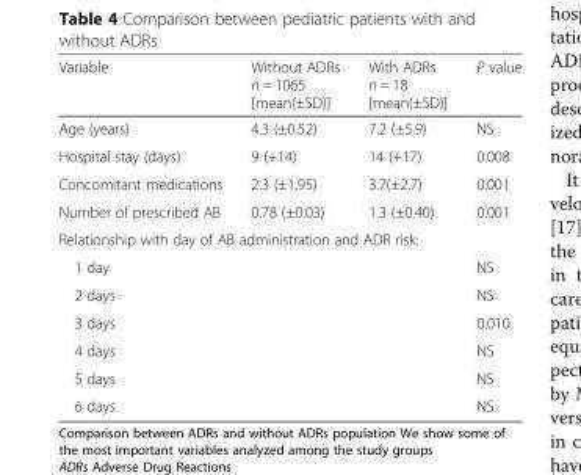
<table><thead><tr><td>Variable</td><td>Without ADRs n = 1065 [mean(±SD)]</td><td>With ADRs n = 18 [mean(±SD)]</td><td>P value</td></tr></thead><tbody><tr><td>Age (years)</td><td>4.3 (±0.52)</td><td>7.2 (±5.9)</td><td>NS</td></tr><tr><td>Hospital stay (days)</td><td>9 (+14)</td><td>14 (+17)</td><td>0.008</td></tr><tr><td>Concomitant medications</td><td>2.3 (±1.95)</td><td>3.7(±2.7)</td><td>0.001</td></tr><tr><td>Number of prescribed AB</td><td>0.78 (±0.03)</td><td>1.3 (±0.40)</td><td>0.001</td></tr><tr><td colspan="4">Relationship with day of AB administration and ADR risk:</td></tr><tr><td colspan="3">1 day</td><td>NS</td></tr><tr><td colspan="3">2 days</td><td>NS</td></tr><tr><td colspan="3">3 days</td><td>0.010</td></tr><tr><td colspan="3">4 days</td><td>NS</td></tr><tr><td colspan="3">5 days</td><td>NS</td></tr><tr><td colspan="3">6 days</td><td>NS</td></tr></tbody></table>